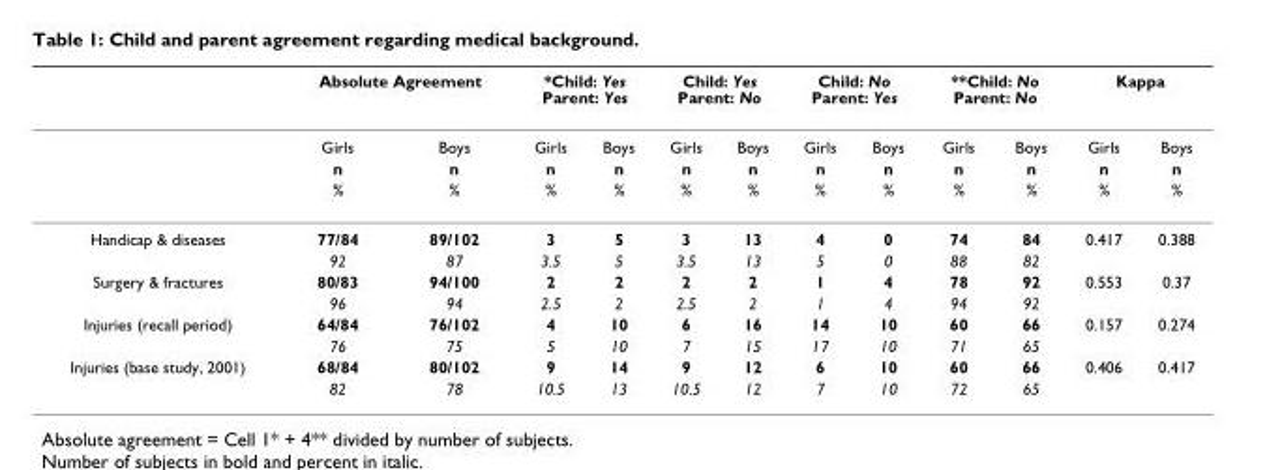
<table><thead><tr><td rowspan="2"></td><td colspan="2">Absolute Agreement</td><td colspan="2">*Child: Yes Parent: Yes</td><td colspan="2">Child: Yes Parent: No</td><td colspan="2">Child: No Parent: Yes</td><td colspan="2">**Child: No Parent: No</td><td colspan="2">Kappa</td></tr><tr><td>Girls</td><td>Boys</td><td>Girls</td><td>Boys</td><td>Girls</td><td>Boys</td><td>Girls</td><td>Boys</td><td>Girls</td><td>Boys</td><td>Girls</td><td>Boys</td></tr></thead><tbody><tr><td></td><td>n</td><td>n</td><td>n</td><td>n</td><td>n</td><td>n</td><td>n</td><td>n</td><td>n</td><td>n</td><td>n</td><td>n</td></tr><tr><td></td><td>%</td><td>%</td><td>%</td><td>%</td><td>%</td><td>%</td><td>%</td><td>%</td><td>%</td><td>%</td><td>%</td><td>%</td></tr><tr><td rowspan="2">Handicap &amp; diseases</td><td>77/84</td><td>89/102</td><td>3</td><td>5</td><td>3</td><td>13</td><td>4</td><td>0</td><td>74</td><td>84</td><td>0.417</td><td>0.388</td></tr><tr><td>92</td><td>87</td><td>3.5</td><td>5</td><td>3.5</td><td>13</td><td>5</td><td>0</td><td>88</td><td>82</td><td></td><td></td></tr><tr><td rowspan="2">Surgery &amp; fractures</td><td>80/83</td><td>94/100</td><td>2</td><td>2</td><td>2</td><td>2</td><td>1</td><td>4</td><td>78</td><td>92</td><td>0.553</td><td>0.37</td></tr><tr><td>96</td><td>94</td><td>2.5</td><td>2</td><td>2.5</td><td>2</td><td>1</td><td>4</td><td>94</td><td>92</td><td></td><td></td></tr><tr><td rowspan="2">Injuries (recall period)</td><td>64/84</td><td>76/102</td><td>4</td><td>10</td><td>6</td><td>16</td><td>14</td><td>10</td><td>60</td><td>66</td><td>0.157</td><td>0.274</td></tr><tr><td>76</td><td>75</td><td>5</td><td>10</td><td>7</td><td>15</td><td>17</td><td>10</td><td>71</td><td>65</td><td></td><td></td></tr><tr><td rowspan="2">Injuries (base study, 2001)</td><td>68/84</td><td>80/102</td><td>9</td><td>14</td><td>9</td><td>12</td><td>6</td><td>10</td><td>60</td><td>66</td><td>0.406</td><td>0.417</td></tr><tr><td>82</td><td>78</td><td>10.5</td><td>13</td><td>10.5</td><td>12</td><td>7</td><td>10</td><td>72</td><td>65</td><td></td><td></td></tr></tbody></table>